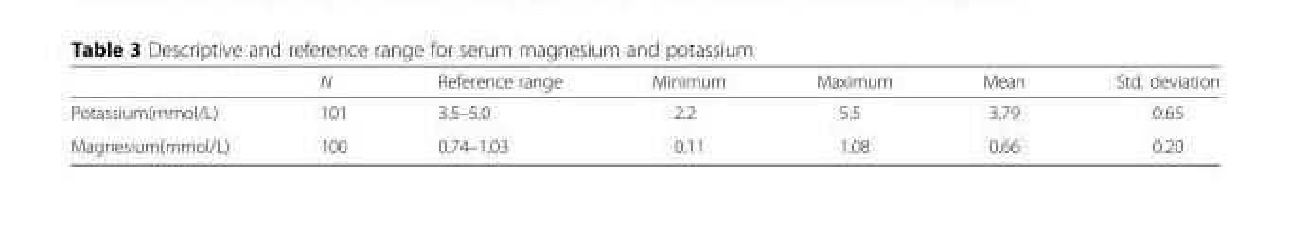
<table><thead><tr><td></td><td>N</td><td>Reference range</td><td>Minimum</td><td>Maximum</td><td>Mean</td><td>Std. deviation</td></tr></thead><tbody><tr><td>Potassium(mmol/L)</td><td>101</td><td>3.5–5.0</td><td>2.2</td><td>5.5</td><td>3.79</td><td>0.65</td></tr><tr><td>Magnesium(mmol/L)</td><td>100</td><td>0.74–1.03</td><td>0.11</td><td>1.08</td><td>0.66</td><td>0.20</td></tr></tbody></table>